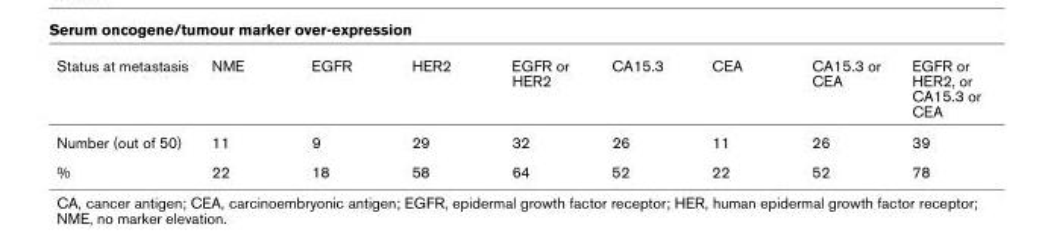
<table><thead><tr><td>Status at metastasis</td><td>NME</td><td>EGFR</td><td>HER2</td><td>EGFR or HER2</td><td>CA15.3</td><td>CEA</td><td>CA15.3 or CEA</td><td>EGFR or HER2, or CA15.3 or CEA</td></tr></thead><tbody><tr><td>Number (out of 50)</td><td>11</td><td>9</td><td>29</td><td>32</td><td>26</td><td>11</td><td>26</td><td>39</td></tr><tr><td>%</td><td>22</td><td>18</td><td>58</td><td>64</td><td>52</td><td>22</td><td>52</td><td>78</td></tr></tbody></table>